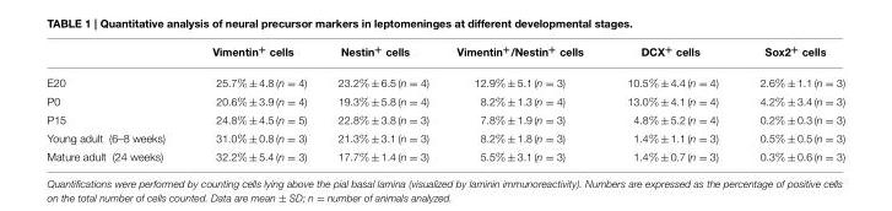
<table><thead><tr><td></td><td>Vimentin<sup>+</sup> cells</td><td>Nestin<sup>+</sup> cells</td><td>Vimentin<sup>+</sup>/Nestin<sup>+</sup> cells</td><td>DCX<sup>+</sup> cells</td><td>Sox2<sup>+</sup> cells</td></tr></thead><tbody><tr><td>E20</td><td>25.7% ± 4.8 (n = 4)</td><td>23.2% ± 6.5 (n = 4)</td><td>12.9% ± 5.1 (n = 3)</td><td>10.5% ± 4.4 (n = 4)</td><td>2.6% ± 1.1 (n = 3)</td></tr><tr><td>P0</td><td>20.6% ± 3.9 (n = 4)</td><td>19.3% ± 5.8 (n = 4)</td><td>8.2% ± 1.3 (n = 4)</td><td>13.0% ± 4.1 (n = 4)</td><td>4.2% ± 3.4 (n = 3)</td></tr><tr><td>P15</td><td>24.8% ± 4.5 (n = 5)</td><td>22.8% ± 3.8 (n = 3)</td><td>7.8% ± 1.9 (n = 3)</td><td>4.8% ± 5.2 (n = 4)</td><td>0.2% ± 0.3 (n = 3)</td></tr><tr><td>Young adult (6–8 weeks)</td><td>31.0% ± 0.8 (n = 3)</td><td>21.3% ± 3.1 (n = 3)</td><td>8.2% ± 1.8 (n = 3)</td><td>1.4% ± 1.1 (n = 3)</td><td>0.5% ± 0.5 (n = 3)</td></tr><tr><td>Mature adult (24 weeks)</td><td>32.2% ± 5.4 (n = 3)</td><td>17.7% ± 1.4 (n = 3)</td><td>5.5% ± 3.1 (n = 3)</td><td>1.4% ± 0.7 (n = 3)</td><td>0.3% ± 0.6 (n = 3)</td></tr></tbody></table>